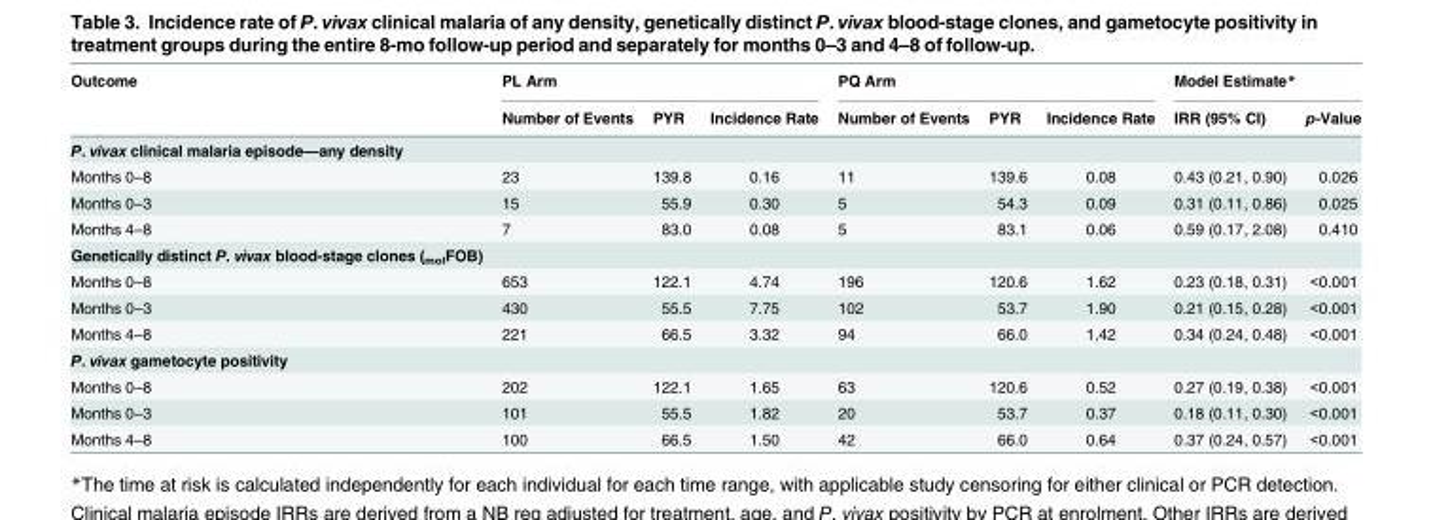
<table><thead><tr><td rowspan="2">Outcome</td><td colspan="3">PL Arm</td><td colspan="3">PQ Arm</td><td colspan="2">Model Estimate*</td></tr><tr><td>Number of Events</td><td>PYR</td><td>Incidence Rate</td><td>Number of Events</td><td>PYR</td><td>Incidence Rate</td><td>IRR (95% CI)</td><td>p-Value</td></tr></thead><tbody><tr><td colspan="9">P. vivax clinical malaria episode—any density</td></tr><tr><td>Months 0–8</td><td>23</td><td>139.8</td><td>0.16</td><td>11</td><td>139.6</td><td>0.08</td><td>0.43 (0.21, 0.90)</td><td>0.026</td></tr><tr><td>Months 0–3</td><td>15</td><td>55.9</td><td>0.30</td><td>5</td><td>54.3</td><td>0.09</td><td>0.31 (0.11, 0.86)</td><td>0.025</td></tr><tr><td>Months 4–8</td><td>7</td><td>83.0</td><td>0.08</td><td>5</td><td>83.1</td><td>0.06</td><td>0.59 (0.17, 2.08)</td><td>0.410</td></tr><tr><td colspan="9">Genetically distinct P. vivax blood-stage clones (<sub>mol</sub>FOB)</td></tr><tr><td>Months 0–8</td><td>653</td><td>122.1</td><td>4.74</td><td>196</td><td>120.6</td><td>1.62</td><td>0.23 (0.18, 0.31)</td><td>&lt;0.001</td></tr><tr><td>Months 0–3</td><td>430</td><td>55.5</td><td>7.75</td><td>102</td><td>53.7</td><td>1.90</td><td>0.21 (0.15, 0.28)</td><td>&lt;0.001</td></tr><tr><td>Months 4–8</td><td>221</td><td>66.5</td><td>3.32</td><td>94</td><td>66.0</td><td>1.42</td><td>0.34 (0.24, 0.48)</td><td>&lt;0.001</td></tr><tr><td colspan="9">P. vivax gametocyte positivity</td></tr><tr><td>Months 0–8</td><td>202</td><td>122.1</td><td>1.65</td><td>63</td><td>120.6</td><td>0.52</td><td>0.27 (0.19, 0.38)</td><td>&lt;0.001</td></tr><tr><td>Months 0–3</td><td>101</td><td>55.5</td><td>1.82</td><td>20</td><td>53.7</td><td>0.37</td><td>0.18 (0.11, 0.30)</td><td>&lt;0.001</td></tr><tr><td>Months 4–8</td><td>100</td><td>66.5</td><td>1.50</td><td>42</td><td>66.0</td><td>0.64</td><td>0.37 (0.24, 0.57)</td><td>&lt;0.001</td></tr></tbody></table>